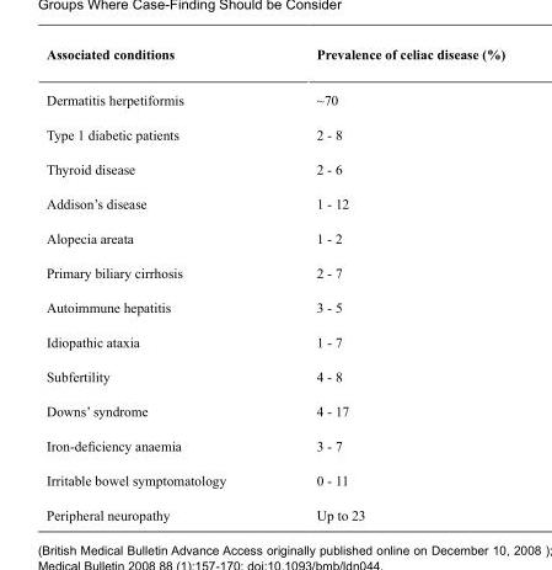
<table><thead><tr><td>Associated conditions</td><td>Prevalence of celiac disease (%)</td></tr></thead><tbody><tr><td>Dermatitis herpetiformis</td><td>~70</td></tr><tr><td>Type 1 diabetic patients</td><td>2 - 8</td></tr><tr><td>Thyroid disease</td><td>2 - 6</td></tr><tr><td>Addison’s disease</td><td>1 - 12</td></tr><tr><td>Alopecia areata</td><td>1 - 2</td></tr><tr><td>Primary biliary cirrhosis</td><td>2 - 7</td></tr><tr><td>Autoimmune hepatitis</td><td>3 - 5</td></tr><tr><td>Idiopathic ataxia</td><td>1 - 7</td></tr><tr><td>Subfertility</td><td>4 - 8</td></tr><tr><td>Downs’ syndrome</td><td>4 - 17</td></tr><tr><td>Iron-deficiency anaemia</td><td>3 - 7</td></tr><tr><td>Irritable bowel symptomatology</td><td>0 - 11</td></tr><tr><td>Peripheral neuropathy</td><td>Up to 23</td></tr></tbody></table>